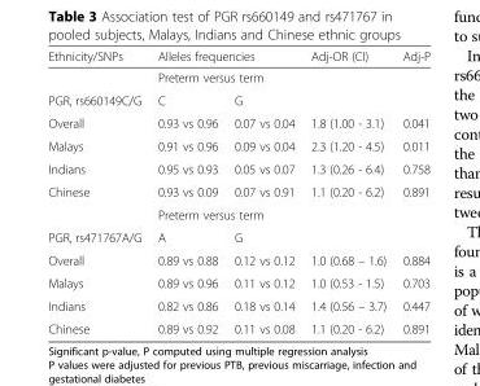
<table><thead><tr><td rowspan="3">Ethnicity/SNPs PGR, rs660149C/G</td><td colspan="2">Alleles frequencies</td><td>Adj-OR (CI)</td><td>Adj-P</td></tr><tr><td colspan="4">Preterm versus term</td></tr><tr><td>C</td><td>G</td><td></td><td></td></tr></thead><tbody><tr><td>Overall</td><td>0.93 vs 0.96</td><td>0.07 vs 0.04</td><td>1.8 (1.00 - 3.1)</td><td>0.041</td></tr><tr><td>Malays</td><td>0.91 vs 0.96</td><td>0.09 vs 0.04</td><td>2.3 (1.20 - 4.5)</td><td>0.011</td></tr><tr><td>Indians</td><td>0.95 vs 0.93</td><td>0.05 vs 0.07</td><td>1.3 (0.26 - 6.4)</td><td>0.758</td></tr><tr><td rowspan="2">Chinese</td><td>0.93 vs 0.09</td><td>0.07 vs 0.91</td><td>1.1 (0.20 - 6.2)</td><td>0.891</td></tr><tr><td colspan="4">Preterm versus term</td></tr><tr><td>PGR, rs471767A/G</td><td>A</td><td>G</td><td></td><td></td></tr><tr><td>Overall</td><td>0.89 vs 0.88</td><td>0.12 vs 0.12</td><td>1.0 (0.68 – 1.6)</td><td>0.884</td></tr><tr><td>Malays</td><td>0.89 vs 0.96</td><td>0.11 vs 0.12</td><td>1.0 (0.53 - 1.5)</td><td>0.703</td></tr><tr><td>Indians</td><td>0.82 vs 0.86</td><td>0.18 vs 0.14</td><td>1.4 (0.56 – 3.7)</td><td>0.447</td></tr><tr><td>Chinese</td><td>0.89 vs 0.92</td><td>0.11 vs 0.08</td><td>1.1 (0.20 - 6.2)</td><td>0.891</td></tr></tbody></table>